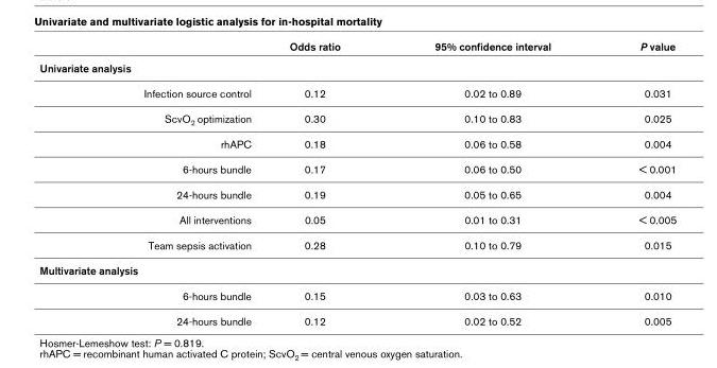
<table><thead><tr><td></td><td>Odds ratio</td><td>95% confidence interval</td><td>P value</td></tr></thead><tbody><tr><td colspan="4">Univariate analysis</td></tr><tr><td>Infection source control</td><td>0.12</td><td>0.02 to 0.89</td><td>0.031</td></tr><tr><td>ScvO2 optimization</td><td>0.30</td><td>0.10 to 0.83</td><td>0.025</td></tr><tr><td>rhAPC</td><td>0.18</td><td>0.06 to 0.58</td><td>0.004</td></tr><tr><td>6-hours bundle</td><td>0.17</td><td>0.06 to 0.50</td><td>&lt; 0.001</td></tr><tr><td>24-hours bundle</td><td>0.19</td><td>0.05 to 0.65</td><td>0.004</td></tr><tr><td>All interventions</td><td>0.05</td><td>0.01 to 0.31</td><td>&lt; 0.005</td></tr><tr><td>Team sepsis activation</td><td>0.28</td><td>0.10 to 0.79</td><td>0.015</td></tr><tr><td colspan="4">Multivariate analysis</td></tr><tr><td>6-hours bundle</td><td>0.15</td><td>0.03 to 0.63</td><td>0.010</td></tr><tr><td>24-hours bundle</td><td>0.12</td><td>0.02 to 0.52</td><td>0.005</td></tr></tbody></table>